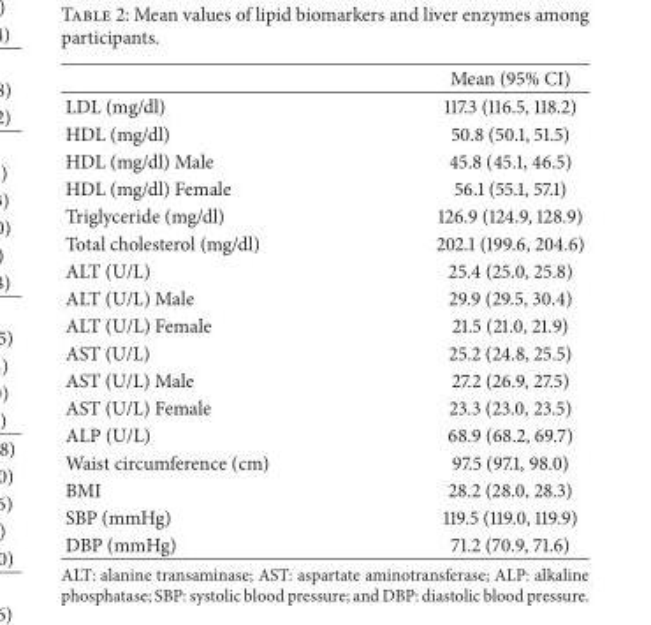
<table><thead><tr><td></td><td>Mean (95% CI)</td></tr></thead><tbody><tr><td>LDL (mg/dl)</td><td>117.3 (116.5, 118.2)</td></tr><tr><td>HDL (mg/dl)</td><td>50.8 (50.1, 51.5)</td></tr><tr><td>HDL (mg/dl) Male</td><td>45.8 (45.1, 46.5)</td></tr><tr><td>HDL (mg/dl) Female</td><td>56.1 (55.1, 57.1)</td></tr><tr><td>Triglyceride (mg/dl)</td><td>126.9 (124.9, 128.9)</td></tr><tr><td>Total cholesterol (mg/dl)</td><td>202.1 (199.6, 204.6)</td></tr><tr><td>ALT (U/L)</td><td>25.4 (25.0, 25.8)</td></tr><tr><td>ALT (U/L) Male</td><td>29.9 (29.5, 30.4)</td></tr><tr><td>ALT (U/L) Female</td><td>21.5 (21.0, 21.9)</td></tr><tr><td>AST (U/L)</td><td>25.2 (24.8, 25.5)</td></tr><tr><td>AST (U/L) Male</td><td>27.2 (26.9, 27.5)</td></tr><tr><td>AST (U/L) Female</td><td>23.3 (23.0, 23.5)</td></tr><tr><td>ALP (U/L)</td><td>68.9 (68.2, 69.7)</td></tr><tr><td>Waist circumference (cm)</td><td>97.5 (97.1, 98.0)</td></tr><tr><td>BMI</td><td>28.2 (28.0, 28.3)</td></tr><tr><td>SBP (mmHg)</td><td>119.5 (119.0, 119.9)</td></tr><tr><td>DBP (mmHg)</td><td>71.2 (70.9, 71.6)</td></tr></tbody></table>